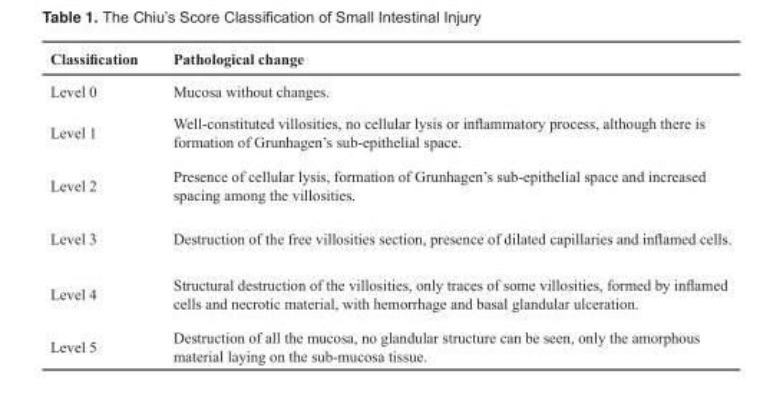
<table><thead><tr><td>Classifi cation</td><td>Pathological change</td></tr></thead><tbody><tr><td>Level 0</td><td>Mucosa without changes.</td></tr><tr><td>Level 1</td><td>Well-constituted villosities, no cellular lysis or infl ammatory process, although there is formation of Grunhagen’s sub-epithelial space.</td></tr><tr><td>Level 2</td><td>Presence of cellular lysis, formation of Grunhagen’s sub-epithelial space and increased spacing among the villosities.</td></tr><tr><td>Level 3</td><td>Destruction of the free villosities section, presence of dilated capillaries and infl amed cells.</td></tr><tr><td>Level 4</td><td>Structural destruction of the villosities, only traces of some villosities, formed by infl amed cells and necrotic material, with hemorrhage and basal glandular ulceration.</td></tr><tr><td>Level 5</td><td>Destruction of all the mucosa, no glandular structure can be seen, only the amorphous material laying on the sub-mucosa tissue.</td></tr></tbody></table>